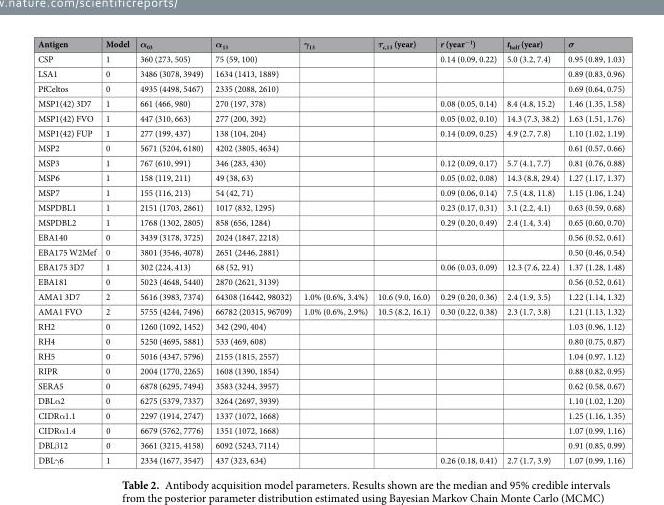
<table><thead><tr><td>Antigen</td><td>Model</td><td>α<sub>03</sub></td><td>α<sub>13</sub></td><td>γ<sub>13</sub></td><td>τ<sub>c,13</sub> (year)</td><td>r (year<sup>−1</sup>)</td><td>t<sub>half</sub> (year)</td><td>σ</td></tr></thead><tbody><tr><td>CSP</td><td>1</td><td>360 (273, 505)</td><td>75 (59, 100)</td><td></td><td></td><td>0.14 (0.09, 0.22)</td><td>5.0 (3.2, 7.4)</td><td>0.95 (0.89, 1.03)</td></tr><tr><td>LSA1</td><td>0</td><td>3486 (3078, 3949)</td><td>1634 (1413, 1889)</td><td></td><td></td><td></td><td></td><td>0.89 (0.83, 0.96)</td></tr><tr><td>PfCeltos</td><td>0</td><td>4935 (4498, 5467)</td><td>2335 (2088, 2610)</td><td></td><td></td><td></td><td></td><td>0.69 (0.64, 0.75)</td></tr><tr><td>MSP1(42) 3D7</td><td>1</td><td>661 (466, 980)</td><td>270 (197, 378)</td><td></td><td></td><td>0.08 (0.05, 0.14)</td><td>8.4 (4.8, 15.2)</td><td>1.46 (1.35, 1.58)</td></tr><tr><td>MSP1(42) FVO</td><td>1</td><td>447 (310, 663)</td><td>277 (200, 392)</td><td></td><td></td><td>0.05 (0.02, 0.10)</td><td>14.3 (7.3, 38.2)</td><td>1.63 (1.51, 1.76)</td></tr><tr><td>MSP1(42) FUP</td><td>1</td><td>277 (199, 437)</td><td>138 (104, 204)</td><td></td><td></td><td>0.14 (0.09, 0.25)</td><td>4.9 (2.7, 7.8)</td><td>1.10 (1.02, 1.19)</td></tr><tr><td>MSP2</td><td>0</td><td>5671 (5204, 6180)</td><td>4202 (3805, 4634)</td><td></td><td></td><td></td><td></td><td>0.61 (0.57, 0.66)</td></tr><tr><td>MSP3</td><td>1</td><td>767 (610, 991)</td><td>346 (283, 430)</td><td></td><td></td><td>0.12 (0.09, 0.17)</td><td>5.7 (4.1, 7.7)</td><td>0.81 (0.76, 0.88)</td></tr><tr><td>MSP6</td><td>1</td><td>158 (119, 211)</td><td>49 (38, 63)</td><td></td><td></td><td>0.05 (0.02, 0.08)</td><td>14.3 (8.8, 29.4)</td><td>1.27 (1.17, 1.37)</td></tr><tr><td>MSP7</td><td>1</td><td>155 (116, 213)</td><td>54 (42, 71)</td><td></td><td></td><td>0.09 (0.06, 0.14)</td><td>7.5 (4.8, 11.8)</td><td>1.15 (1.06, 1.24)</td></tr><tr><td>MSPDBL1</td><td>1</td><td>2151 (1703, 2861)</td><td>1017 (832, 1295)</td><td></td><td></td><td>0.23 (0.17, 0.31)</td><td>3.1 (2.2, 4.1)</td><td>0.63 (0.59, 0.68)</td></tr><tr><td>MSPDBL2</td><td>1</td><td>1768 (1302, 2805)</td><td>858 (656, 1284)</td><td></td><td></td><td>0.29 (0.20, 0.49)</td><td>2.4 (1.4, 3.4)</td><td>0.65 (0.60, 0.70)</td></tr><tr><td>EBA140</td><td>0</td><td>3439 (3178, 3725)</td><td>2024 (1847, 2218)</td><td></td><td></td><td></td><td></td><td>0.56 (0.52, 0.61)</td></tr><tr><td>EBA175 W2Mef</td><td>0</td><td>3801 (3546, 4078)</td><td>2651 (2446, 2881)</td><td></td><td></td><td></td><td></td><td>0.50 (0.46, 0.54)</td></tr><tr><td>EBA175 3D7</td><td>1</td><td>302 (224, 413)</td><td>68 (52, 91)</td><td></td><td></td><td>0.06 (0.03, 0.09)</td><td>12.3 (7.6, 22.4)</td><td>1.37 (1.28, 1.48)</td></tr><tr><td>EBA181</td><td>0</td><td>5023 (4648, 5440)</td><td>2870 (2621, 3139)</td><td></td><td></td><td></td><td></td><td>0.56 (0.52, 0.61)</td></tr><tr><td>AMA1 3D7</td><td>2</td><td>5616 (3983, 7374)</td><td>64308 (16442, 98032)</td><td>1.0% (0.6%, 3.4%)</td><td>10.6 (9.0, 16.0)</td><td>0.29 (0.20, 0.36)</td><td>2.4 (1.9, 3.5)</td><td>1.22 (1.14, 1.32)</td></tr><tr><td>AMA1 FVO</td><td>2</td><td>5755 (4244, 7496)</td><td>66782 (20315, 96709)</td><td>1.0% (0.6%, 2.9%)</td><td>10.5 (8.2, 16.1)</td><td>0.30 (0.22, 0.38)</td><td>2.3 (1.7, 3.8)</td><td>1.21 (1.13, 1.32)</td></tr><tr><td>RH2</td><td>0</td><td>1260 (1092, 1452)</td><td>342 (290, 404)</td><td></td><td></td><td></td><td></td><td>1.03 (0.96, 1.12)</td></tr><tr><td>RH4</td><td>0</td><td>5250 (4695, 5881)</td><td>533 (469, 608)</td><td></td><td></td><td></td><td></td><td>0.80 (0.75, 0.87)</td></tr><tr><td>RH5</td><td>0</td><td>5016 (4347, 5796)</td><td>2155 (1815, 2557)</td><td></td><td></td><td></td><td></td><td>1.04 (0.97, 1.12)</td></tr><tr><td>RIPR</td><td>0</td><td>2004 (1770, 2265)</td><td>1608 (1390, 1854)</td><td></td><td></td><td></td><td></td><td>0.88 (0.82, 0.95)</td></tr><tr><td>SERA5</td><td>0</td><td>6878 (6295, 7494)</td><td>3583 (3244, 3957)</td><td></td><td></td><td></td><td></td><td>0.62 (0.58, 0.67)</td></tr><tr><td>DBLα2</td><td>0</td><td>6275 (5379, 7337)</td><td>3264 (2697, 3939)</td><td></td><td></td><td></td><td></td><td>1.10 (1.02, 1.20)</td></tr><tr><td>CIDRα1.1</td><td>0</td><td>2297 (1914, 2747)</td><td>1337 (1072, 1668)</td><td></td><td></td><td></td><td></td><td>1.25 (1.16, 1.35)</td></tr><tr><td>CIDRα1.4</td><td>0</td><td>6679 (5762, 7776)</td><td>1351 (1072, 1668)</td><td></td><td></td><td></td><td></td><td>1.07 (0.99, 1.16)</td></tr><tr><td>DBLβ12</td><td>0</td><td>3661 (3215, 4158)</td><td>6092 (5243, 7114)</td><td></td><td></td><td></td><td></td><td>0.91 (0.85, 0.99)</td></tr><tr><td>DBLγ6</td><td>1</td><td>2334 (1677, 3547)</td><td>437 (323, 634)</td><td></td><td></td><td>0.26 (0.18, 0.41)</td><td>2.7 (1.7, 3.9)</td><td>1.07 (0.99, 1.16)</td></tr></tbody></table>